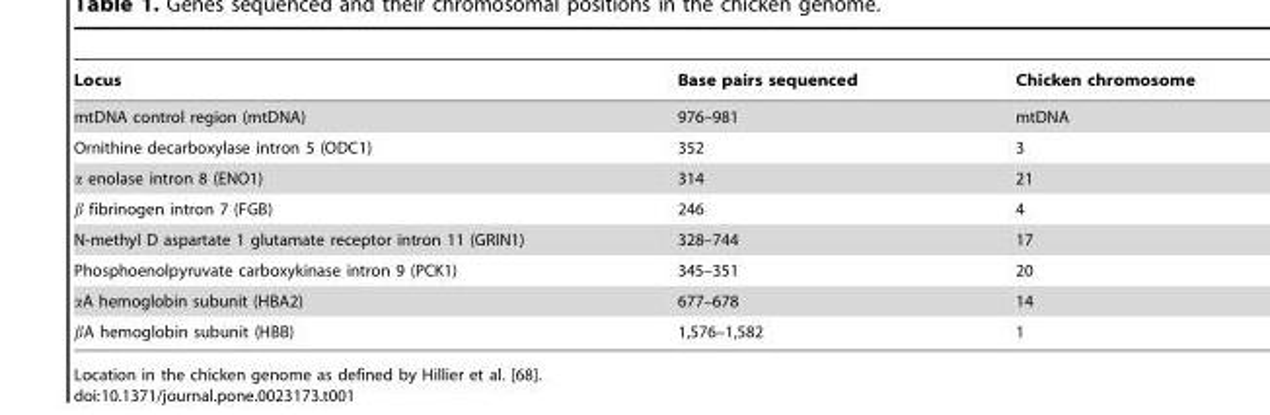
<table><thead><tr><td>Locus</td><td>Base pairs sequenced</td><td>Chicken chromosome</td></tr></thead><tbody><tr><td>mtDNA control region (mtDNA)</td><td>976–981</td><td>mtDNA</td></tr><tr><td>Ornithine decarboxylase intron 5 (ODC1)</td><td>352</td><td>3</td></tr><tr><td>α enolase intron 8 (ENO1)</td><td>314</td><td>21</td></tr><tr><td>β fibrinogen intron 7 (FGB)</td><td>246</td><td>4</td></tr><tr><td>N-methyl D aspartate 1 glutamate receptor intron 11 (GRIN1)</td><td>328–744</td><td>17</td></tr><tr><td>Phosphoenolpyruvate carboxykinase intron 9 (PCK1)</td><td>345–351</td><td>20</td></tr><tr><td>αA hemoglobin subunit (HBA2)</td><td>677–678</td><td>14</td></tr><tr><td>βA hemoglobin subunit (HBB)</td><td>1,576–1,582</td><td>1</td></tr></tbody></table>